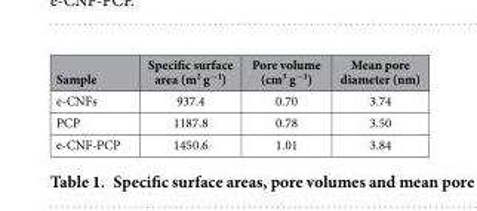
<table><thead><tr><td>Sample</td><td>Specific surface area (m<sup>2</sup> g<sup>−1</sup>)</td><td>Pore volume (cm<sup>3</sup> g<sup>−1</sup>)</td><td>Mean pore diameter (nm)</td></tr></thead><tbody><tr><td>e-CNFs</td><td>937.4</td><td>0.70</td><td>3.74</td></tr><tr><td>PCP</td><td>1187.8</td><td>0.78</td><td>3.50</td></tr><tr><td>e-CNF-PCP</td><td>1450.6</td><td>1.01</td><td>3.84</td></tr></tbody></table>